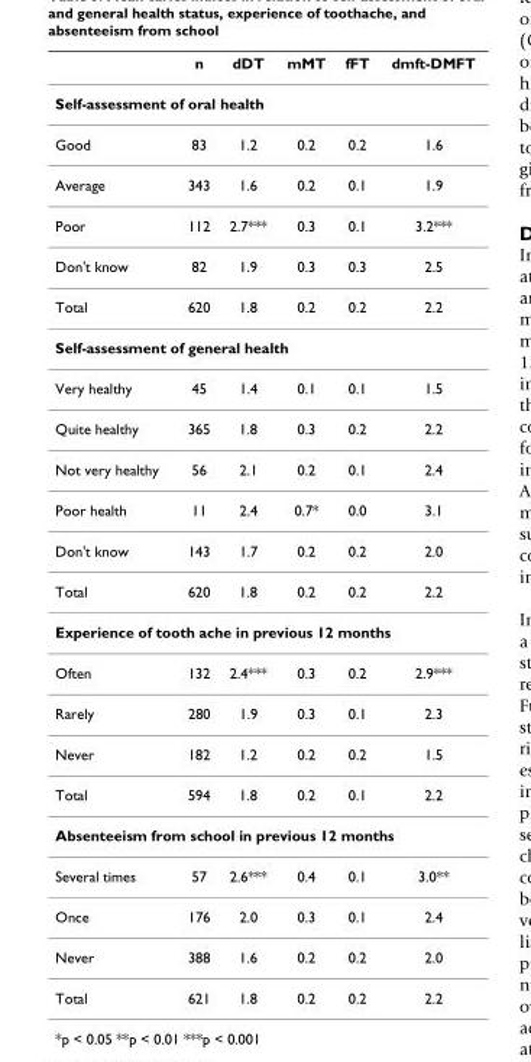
<table><thead><tr><td></td><td>n</td><td>dDT</td><td>mMT</td><td>fFT</td><td>dmft-DMFT</td></tr></thead><tbody><tr><td colspan="6">Self-assessment of oral health</td></tr><tr><td>Good</td><td>83</td><td>1.2</td><td>0.2</td><td>0.2</td><td>1.6</td></tr><tr><td>Average</td><td>343</td><td>1.6</td><td>0.2</td><td>0.1</td><td>1.9</td></tr><tr><td>Poor</td><td>112</td><td>2.7***</td><td>0.3</td><td>0.1</td><td>3.2***</td></tr><tr><td>Don&#x27;t know</td><td>82</td><td>1.9</td><td>0.3</td><td>0.3</td><td>2.5</td></tr><tr><td>Total</td><td>620</td><td>1.8</td><td>0.2</td><td>0.2</td><td>2.2</td></tr><tr><td colspan="6">Self-assessment of general health</td></tr><tr><td>Very healthy</td><td>45</td><td>1.4</td><td>0.1</td><td>0.1</td><td>1.5</td></tr><tr><td>Quite healthy</td><td>365</td><td>1.8</td><td>0.3</td><td>0.2</td><td>2.2</td></tr><tr><td>Not very healthy</td><td>56</td><td>2.1</td><td>0.2</td><td>0.1</td><td>2.4</td></tr><tr><td>Poor health</td><td>11</td><td>2.4</td><td>0.7*</td><td>0.0</td><td>3.1</td></tr><tr><td>Don&#x27;t know</td><td>143</td><td>1.7</td><td>0.2</td><td>0.2</td><td>2.0</td></tr><tr><td>Total</td><td>620</td><td>1.8</td><td>0.2</td><td>0.2</td><td>2.2</td></tr><tr><td colspan="6">Experience of tooth ache in previous 12 months</td></tr><tr><td>Often</td><td>132</td><td>2.4***</td><td>0.3</td><td>0.2</td><td>2.9***</td></tr><tr><td>Rarely</td><td>280</td><td>1.9</td><td>0.3</td><td>0.1</td><td>2.3</td></tr><tr><td>Never</td><td>182</td><td>1.2</td><td>0.2</td><td>0.2</td><td>1.5</td></tr><tr><td>Total</td><td>594</td><td>1.8</td><td>0.2</td><td>0.1</td><td>2.2</td></tr><tr><td colspan="6">Absenteeism from school in previous 12 months</td></tr><tr><td>Several times</td><td>57</td><td>2.6***</td><td>0.4</td><td>0.1</td><td>3.0**</td></tr><tr><td>Once</td><td>176</td><td>2.0</td><td>0.3</td><td>0.1</td><td>2.4</td></tr><tr><td>Never</td><td>388</td><td>1.6</td><td>0.2</td><td>0.2</td><td>2.0</td></tr><tr><td>Total</td><td>621</td><td>1.8</td><td>0.2</td><td>0.2</td><td>2.2</td></tr></tbody></table>